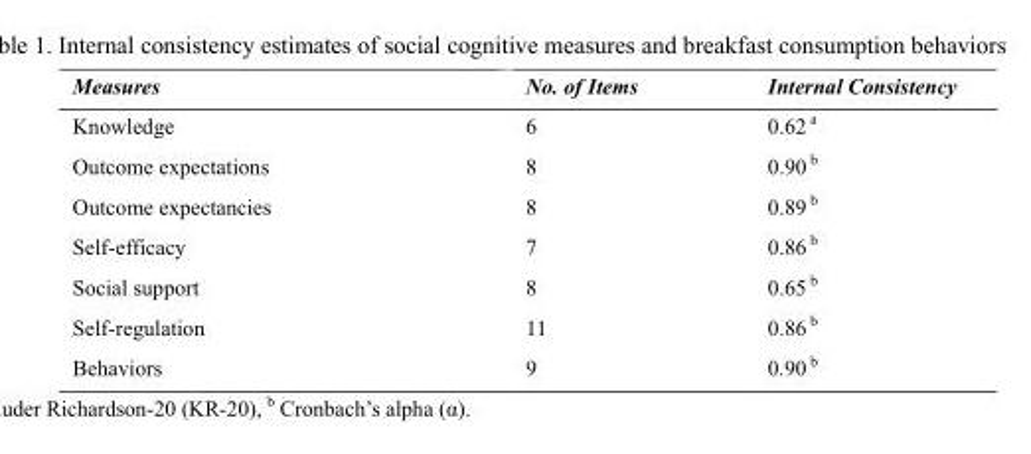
<table><thead><tr><td>Measures</td><td>No. of Items</td><td>Internal Consistency</td></tr></thead><tbody><tr><td>Knowledge</td><td>6</td><td>0.62 <sup>a</sup></td></tr><tr><td>Outcome expectations</td><td>8</td><td>0.90 <sup>b</sup></td></tr><tr><td>Outcome expectancies</td><td>8</td><td>0.89 <sup>b</sup></td></tr><tr><td>Self-efficacy</td><td>7</td><td>0.86 <sup>b</sup></td></tr><tr><td>Social support</td><td>8</td><td>0.65 <sup>b</sup></td></tr><tr><td>Self-regulation</td><td>11</td><td>0.86 <sup>b</sup></td></tr><tr><td>Behaviors</td><td>9</td><td>0.90 <sup>b</sup></td></tr></tbody></table>